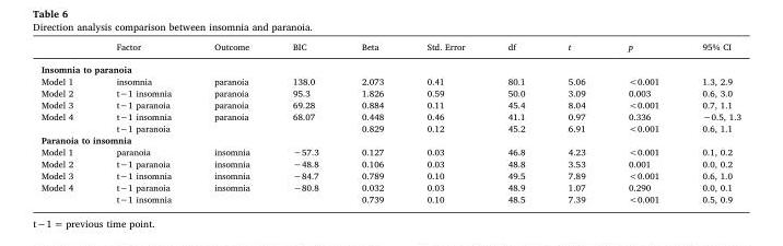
<table><thead><tr><td></td><td>Factor</td><td>Outcome</td><td>BIC</td><td>Beta</td><td>Std. Error</td><td>df</td><td>t</td><td>p</td><td>95% CI</td></tr></thead><tbody><tr><td colspan="10">Insomnia to paranoia</td></tr><tr><td>Model 1</td><td>insomnia</td><td>paranoia</td><td>138.0</td><td>2.073</td><td>0.41</td><td>80.1</td><td>5.06</td><td>&lt;0.001</td><td>1.3, 2.9</td></tr><tr><td>Model 2</td><td>t−1 insomnia</td><td>paranoia</td><td>95.3</td><td>1.826</td><td>0.59</td><td>50.0</td><td>3.09</td><td>0.003</td><td>0.6, 3.0</td></tr><tr><td>Model 3</td><td>t−1 paranoia</td><td>paranoia</td><td>69.28</td><td>0.884</td><td>0.11</td><td>45.4</td><td>8.04</td><td>&lt;0.001</td><td>0.7, 1.1</td></tr><tr><td rowspan="2">Model 4</td><td>t−1 insomnia</td><td>paranoia</td><td>68.07</td><td>0.448</td><td>0.46</td><td>41.1</td><td>0.97</td><td>0.336</td><td>−0.5, 1.3</td></tr><tr><td>t−1 paranoia</td><td></td><td></td><td>0.829</td><td>0.12</td><td>45.2</td><td>6.91</td><td>&lt;0.001</td><td>0.6, 1.1</td></tr><tr><td colspan="10">Paranoia to insomnia</td></tr><tr><td>Model 1</td><td>paranoia</td><td>insomnia</td><td>−57.3</td><td>0.127</td><td>0.03</td><td>46.8</td><td>4.23</td><td>&lt;0.001</td><td>0.1, 0.2</td></tr><tr><td>Model 2</td><td>t−1 paranoia</td><td>insomnia</td><td>−48.8</td><td>0.106</td><td>0.03</td><td>48.8</td><td>3.53</td><td>0.001</td><td>0.0, 0.2</td></tr><tr><td>Model 3</td><td>t−1 insomnia</td><td>insomnia</td><td>−84.7</td><td>0.789</td><td>0.10</td><td>49.5</td><td>7.89</td><td>&lt;0.001</td><td>0.6, 1.0</td></tr><tr><td rowspan="2">Model 4</td><td>t−1 paranoia</td><td>insomnia</td><td>−80.8</td><td>0.032</td><td>0.03</td><td>48.9</td><td>1.07</td><td>0.290</td><td>0.0, 0.1</td></tr><tr><td>t−1 insomnia</td><td></td><td></td><td>0.739</td><td>0.10</td><td>48.5</td><td>7.39</td><td>&lt;0.001</td><td>0.5, 0.9</td></tr></tbody></table>